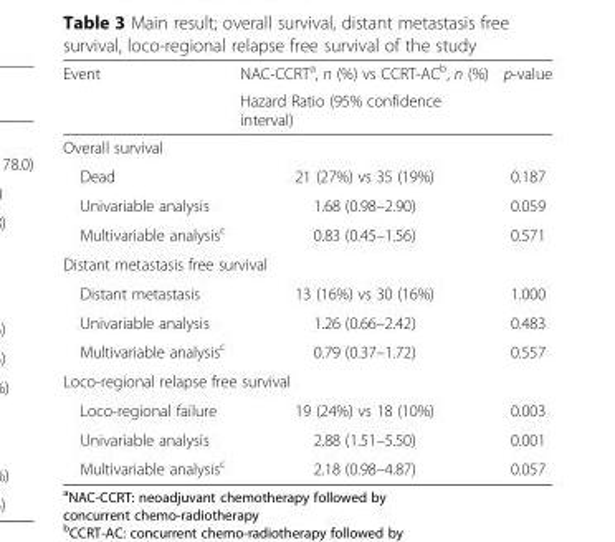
<table><thead><tr><td rowspan="2">Event</td><td rowspan="2">NAC-CCRT<sup>a</sup>, n (%) vs CCRT-AC<sup>b</sup>, n (%) Hazard Ratio (95% confidence interval)</td><td rowspan="2">p-value</td></tr><tr></tr></thead><tbody><tr><td colspan="3">Overall survival</td></tr><tr><td>Dead</td><td>21 (27%) vs 35 (19%)</td><td>0.187</td></tr><tr><td>Univariable analysis</td><td>1.68 (0.98–2.90)</td><td>0.059</td></tr><tr><td>Multivariable analysis<sup>c</sup></td><td>0.83 (0.45–1.56)</td><td>0.571</td></tr><tr><td colspan="3">Distant metastasis free survival</td></tr><tr><td>Distant metastasis</td><td>13 (16%) vs 30 (16%)</td><td>1.000</td></tr><tr><td>Univariable analysis</td><td>1.26 (0.66–2.42)</td><td>0.483</td></tr><tr><td>Multivariable analysis<sup>c</sup></td><td>0.79 (0.37–1.72)</td><td>0.557</td></tr><tr><td colspan="3">Loco-regional relapse free survival</td></tr><tr><td>Loco-regional failure</td><td>19 (24%) vs 18 (10%)</td><td>0.003</td></tr><tr><td>Univariable analysis</td><td>2.88 (1.51–5.50)</td><td>0.001</td></tr><tr><td>Multivariable analysis<sup>c</sup></td><td>2.18 (0.98–4.87)</td><td>0.057</td></tr></tbody></table>